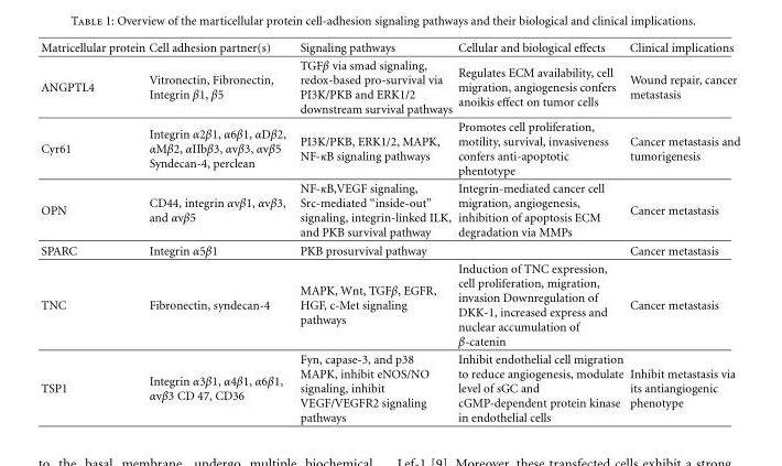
<table><thead><tr><td>Matricellular protein</td><td>Cell adhesion partner(s)</td><td>Signaling pathways</td><td>Cellular and biological effects</td><td>Clinical implications</td></tr></thead><tbody><tr><td>ANGPTL4</td><td>Vitronectin, Fibronectin, Integrin β1, β5</td><td>TGFβ via smad signaling, redox-based pro-survival via PI3K/PKB and ERK1/2 downstream survival pathways</td><td>Regulates ECM availability, cell migration, angiogenesis confers anoikis effect on tumor cells</td><td>Wound repair, cancer metastasis</td></tr><tr><td>Cyr61</td><td>Integrin α2β1, α6β1, αDβ2, αMβ2, αIIbβ3, αvβ3, αvβ5 Syndecan-4, perclean</td><td>PI3K/PKB, ERK1/2, MAPK, NF-κB signaling pathways</td><td>Promotes cell proliferation, motility, survival, invasiveness confers anti-apoptotic phentotype</td><td>Cancer metastasis and tumorigenesis</td></tr><tr><td>OPN</td><td>CD44, integrin αvβ1, αvβ3, and αvβ5</td><td>NF-κB,VEGF signaling, Src-mediated “inside-out” signaling, integrin-linked ILK, and PKB survival pathway</td><td>Integrin-mediated cancer cell migration, angiogenesis, inhibition of apoptosis ECM degradation via MMPs</td><td>Cancer metastasis</td></tr><tr><td>SPARC</td><td>Integrin α5β1</td><td>PKB prosurvival pathway</td><td></td><td>Cancer metastasis</td></tr><tr><td>TNC</td><td>Fibronectin, syndecan-4</td><td>MAPK, Wnt, TGFβ, EGFR, HGF, c-Met signaling pathways</td><td>Induction of TNC expression, cell proliferation, migration, invasion Downregulation of DKK-1, increased express and nuclear accumulation of β-catenin</td><td>Cancer metastasis</td></tr><tr><td>TSP1</td><td>Integrin α3β1, α4β1, α6β1, αvβ3 CD 47, CD36</td><td>Fyn, capase-3, and p38 MAPK, inhibit eNOS/NO signaling, inhibit VEGF/VEGFR2 signaling pathways</td><td>Inhibit endothelial cell migration to reduce angiogenesis, modulate level of sGC and cGMP-dependent protein kinase in endothelial cells</td><td>Inhibit metastasis via its antiangiogenic phenotype</td></tr></tbody></table>